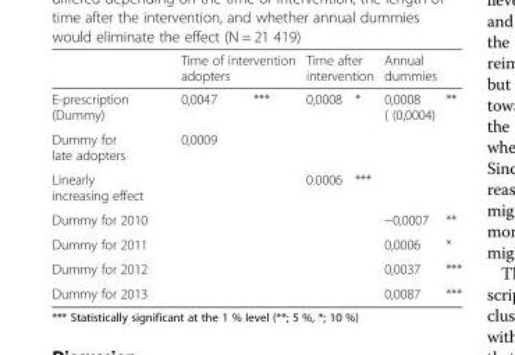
<table><thead><tr><td rowspan="2">E-prescription (Dummy)</td><td colspan="2">Time of intervention adopters</td><td colspan="2">Time after intervention</td><td colspan="2">Annual dummies</td></tr><tr><td>0,0047</td><td>***</td><td>0,0008</td><td>*</td><td>0,0008 ( (0,0004)</td><td>**</td></tr></thead><tbody><tr><td>Dummy for late adopters</td><td>0,0009</td><td></td><td></td><td></td><td></td><td></td></tr><tr><td>Linearly increasing effect</td><td></td><td></td><td>0.0006</td><td>***</td><td></td><td></td></tr><tr><td>Dummy for 2010</td><td></td><td></td><td></td><td></td><td>−0,0007</td><td>**</td></tr><tr><td>Dummy for 2011</td><td></td><td></td><td></td><td></td><td>0,0006</td><td>*</td></tr><tr><td>Dummy for 2012</td><td></td><td></td><td></td><td></td><td>0,0037</td><td>***</td></tr><tr><td>Dummy for 2013</td><td></td><td></td><td></td><td></td><td>0,0087</td><td>***</td></tr></tbody></table>